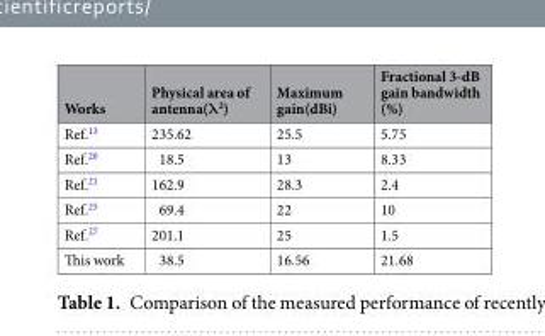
<table><thead><tr><td>Works</td><td>Physical area of antenna(λ<sup>2</sup>)</td><td>Maximum gain(dBi)</td><td>Fractional 3-dB gain bandwidth (%)</td></tr></thead><tbody><tr><td>Ref.<sup>13</sup></td><td>235.62</td><td>25.5</td><td>5.75</td></tr><tr><td>Ref.<sup>20</sup></td><td>18.5</td><td>13</td><td>8.33</td></tr><tr><td>Ref.<sup>21</sup></td><td>162.9</td><td>28.3</td><td>2.4</td></tr><tr><td>Ref.<sup>25</sup></td><td>69.4</td><td>22</td><td>10</td></tr><tr><td>Ref.<sup>27</sup></td><td>201.1</td><td>25</td><td>1.5</td></tr><tr><td>This work</td><td>38.5</td><td>16.56</td><td>21.68</td></tr></tbody></table>